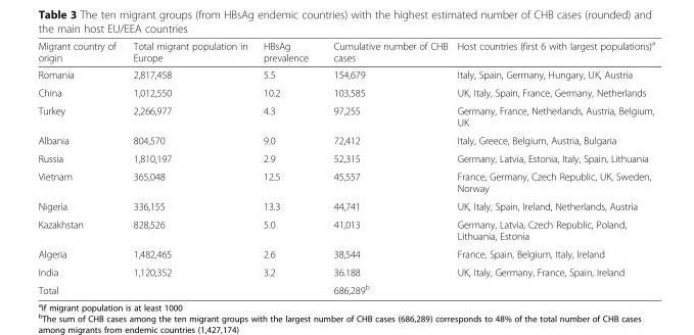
<table><thead><tr><td>Migrant country of origin</td><td>Total migrant population in Europe</td><td>HBsAg prevalence</td><td>Cumulative number of CHB cases</td><td>Host countries (first 6 with largest populations)<sup>a</sup></td></tr></thead><tbody><tr><td>Romania</td><td>2,817,458</td><td>5.5</td><td>154,679</td><td>Italy, Spain, Germany, Hungary, UK, Austria</td></tr><tr><td>China</td><td>1,012,550</td><td>10.2</td><td>103,585</td><td>UK, Italy, Spain, France, Germany, Netherlands</td></tr><tr><td>Turkey</td><td>2,266,977</td><td>4.3</td><td>97,255</td><td>Germany, France, Netherlands, Austria, Belgium, UK</td></tr><tr><td>Albania</td><td>804,570</td><td>9.0</td><td>72,412</td><td>Italy, Greece, Belgium, Austria, Bulgaria</td></tr><tr><td>Russia</td><td>1,810,197</td><td>2.9</td><td>52,315</td><td>Germany, Latvia, Estonia, Italy, Spain, Lithuania</td></tr><tr><td>Vietnam</td><td>365,048</td><td>12.5</td><td>45,557</td><td>France, Germany, Czech Republic, UK, Sweden, Norway</td></tr><tr><td>Nigeria</td><td>336,155</td><td>13.3</td><td>44,741</td><td>UK, Italy, Spain, Ireland, Netherlands, Austria</td></tr><tr><td>Kazakhstan</td><td>828,526</td><td>5.0</td><td>41,013</td><td>Germany, Latvia, Czech Republic, Poland, Lithuania, Estonia</td></tr><tr><td>Algeria</td><td>1,482,465</td><td>2.6</td><td>38,544</td><td>France, Spain, Belgium, Italy, Ireland</td></tr><tr><td>India</td><td>1,120,352</td><td>3.2</td><td>36.188</td><td>UK, Italy, Germany, France, Spain, Ireland</td></tr><tr><td>Total</td><td></td><td></td><td>686,289<sup>b</sup></td><td></td></tr></tbody></table>